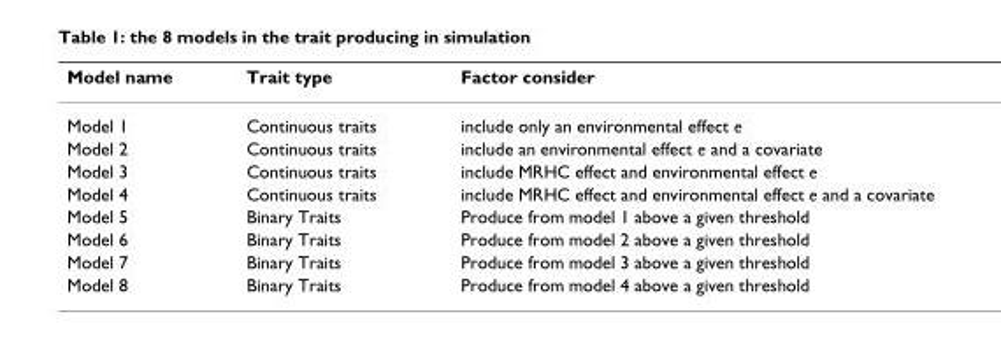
<table><thead><tr><td>Model name</td><td>Trait type</td><td>Factor consider</td></tr></thead><tbody><tr><td>Model 1</td><td>Continuous traits</td><td>include only an environmental effect e</td></tr><tr><td>Model 2</td><td>Continuous traits</td><td>include an environmental effect e and a covariate</td></tr><tr><td>Model 3</td><td>Continuous traits</td><td>include MRHC effect and environmental effect e</td></tr><tr><td>Model 4</td><td>Continuous traits</td><td>include MRHC effect and environmental effect e and a covariate</td></tr><tr><td>Model 5</td><td>Binary Traits</td><td>Produce from model 1 above a given threshold</td></tr><tr><td>Model 6</td><td>Binary Traits</td><td>Produce from model 2 above a given threshold</td></tr><tr><td>Model 7</td><td>Binary Traits</td><td>Produce from model 3 above a given threshold</td></tr><tr><td>Model 8</td><td>Binary Traits</td><td>Produce from model 4 above a given threshold</td></tr></tbody></table>